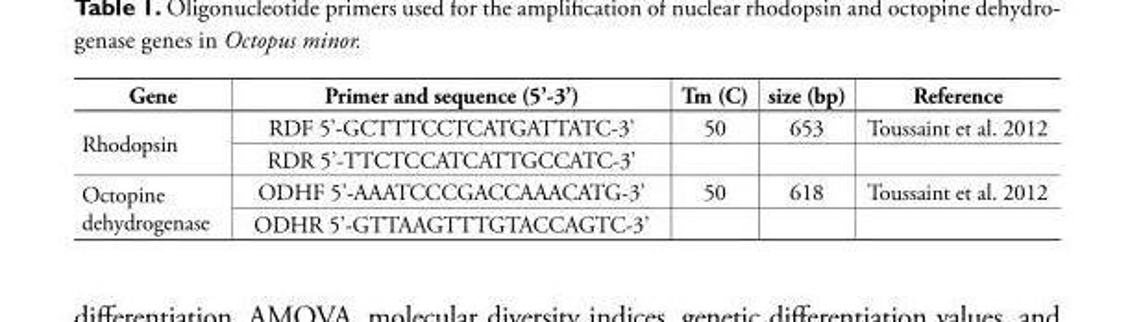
<table><thead><tr><td>Gene</td><td>Primer and sequence (5’-3’)</td><td>Tm (C)</td><td>size (bp)</td><td>Reference</td></tr></thead><tbody><tr><td rowspan="2">Rhodopsin</td><td>RDF 5’-GCTTTCCTCATGATTATC-3’</td><td>50</td><td>653</td><td>Toussaint et al. 2012</td></tr><tr><td>RDR 5’-TTCTCCATCATTGCCATC-3’</td><td></td><td></td><td></td></tr><tr><td rowspan="2">Octopine dehydrogenase</td><td>ODHF 5’-AAATCCCGACCAAACATG-3’</td><td>50</td><td>618</td><td>Toussaint et al. 2012</td></tr><tr><td>ODHR 5’-GTTAAGTTTGTACCAGTC-3’</td><td></td><td></td><td></td></tr></tbody></table>